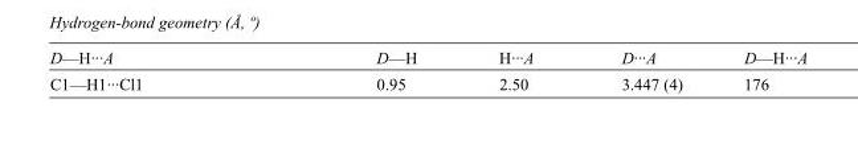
<table><tbody><tr><td>D—H···A</td><td>D—H</td><td>H···A</td><td>D···A</td><td>D—H···A</td></tr><tr><td>C1—H1···Cl1</td><td>0.95</td><td>2.50</td><td>3.447 (4)</td><td>176</td></tr></tbody></table>